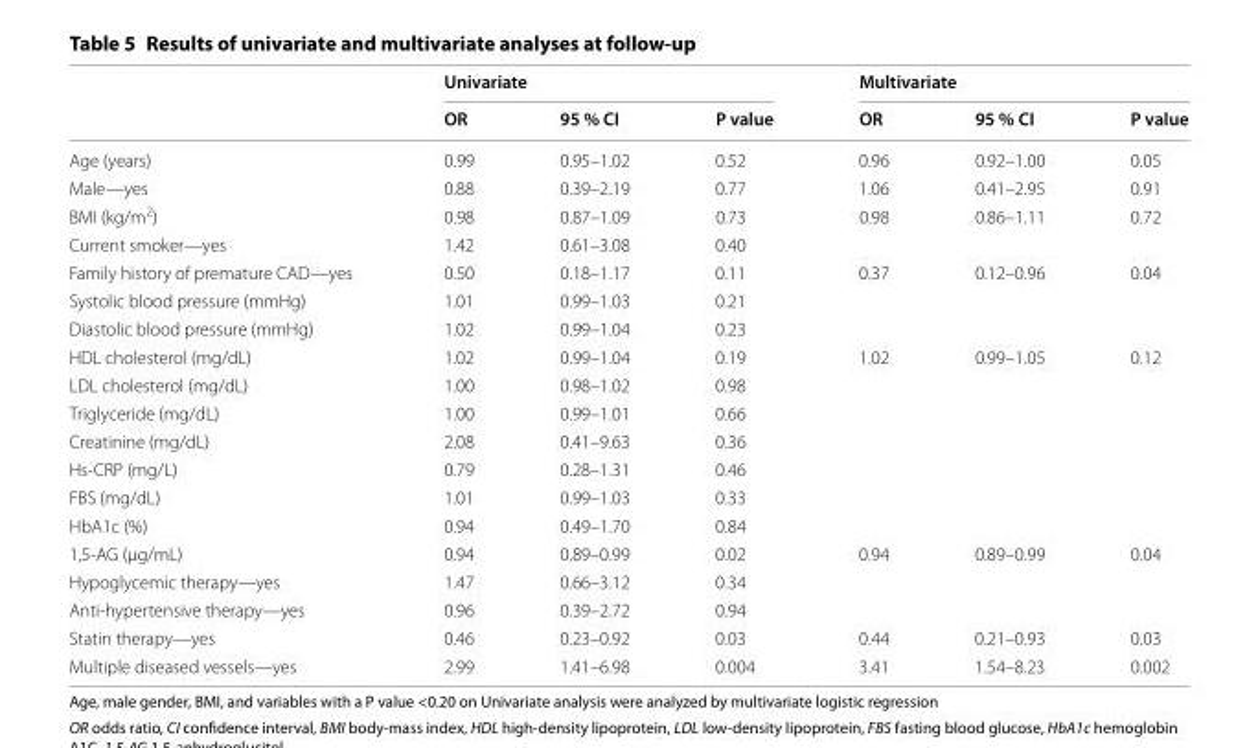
<table><thead><tr><td rowspan="2"></td><td colspan="3">Univariate</td><td colspan="3">Multivariate</td></tr><tr><td>OR</td><td>95 % CI</td><td>P value</td><td>OR</td><td>95 % CI</td><td>P value</td></tr></thead><tbody><tr><td>Age (years)</td><td>0.99</td><td>0.95–1.02</td><td>0.52</td><td>0.96</td><td>0.92–1.00</td><td>0.05</td></tr><tr><td>Male—yes</td><td>0.88</td><td>0.39–2.19</td><td>0.77</td><td>1.06</td><td>0.41–2.95</td><td>0.91</td></tr><tr><td>BMI (kg/m<sup>2</sup>)</td><td>0.98</td><td>0.87–1.09</td><td>0.73</td><td>0.98</td><td>0.86–1.11</td><td>0.72</td></tr><tr><td>Current smoker—yes</td><td>1.42</td><td>0.61–3.08</td><td>0.40</td><td></td><td></td><td></td></tr><tr><td>Family history of premature CAD—yes</td><td>0.50</td><td>0.18–1.17</td><td>0.11</td><td>0.37</td><td>0.12–0.96</td><td>0.04</td></tr><tr><td>Systolic blood pressure (mmHg)</td><td>1.01</td><td>0.99–1.03</td><td>0.21</td><td></td><td></td><td></td></tr><tr><td>Diastolic blood pressure (mmHg)</td><td>1.02</td><td>0.99–1.04</td><td>0.23</td><td></td><td></td><td></td></tr><tr><td>HDL cholesterol (mg/dL)</td><td>1.02</td><td>0.99–1.04</td><td>0.19</td><td>1.02</td><td>0.99–1.05</td><td>0.12</td></tr><tr><td>LDL cholesterol (mg/dL)</td><td>1.00</td><td>0.98–1.02</td><td>0.98</td><td></td><td></td><td></td></tr><tr><td>Triglyceride (mg/dL)</td><td>1.00</td><td>0.99–1.01</td><td>0.66</td><td></td><td></td><td></td></tr><tr><td>Creatinine (mg/dL)</td><td>2.08</td><td>0.41–9.63</td><td>0.36</td><td></td><td></td><td></td></tr><tr><td>Hs-CRP (mg/L)</td><td>0.79</td><td>0.28–1.31</td><td>0.46</td><td></td><td></td><td></td></tr><tr><td>FBS (mg/dL)</td><td>1.01</td><td>0.99–1.03</td><td>0.33</td><td></td><td></td><td></td></tr><tr><td>HbA1c (%)</td><td>0.94</td><td>0.49–1.70</td><td>0.84</td><td></td><td></td><td></td></tr><tr><td>1,5-AG (μg/mL)</td><td>0.94</td><td>0.89–0.99</td><td>0.02</td><td>0.94</td><td>0.89–0.99</td><td>0.04</td></tr><tr><td>Hypoglycemic therapy—yes</td><td>1.47</td><td>0.66–3.12</td><td>0.34</td><td></td><td></td><td></td></tr><tr><td>Anti-hypertensive therapy—yes</td><td>0.96</td><td>0.39–2.72</td><td>0.94</td><td></td><td></td><td></td></tr><tr><td>Statin therapy—yes</td><td>0.46</td><td>0.23–0.92</td><td>0.03</td><td>0.44</td><td>0.21–0.93</td><td>0.03</td></tr><tr><td>Multiple diseased vessels—yes</td><td>2.99</td><td>1.41–6.98</td><td>0.004</td><td>3.41</td><td>1.54–8.23</td><td>0.002</td></tr></tbody></table>